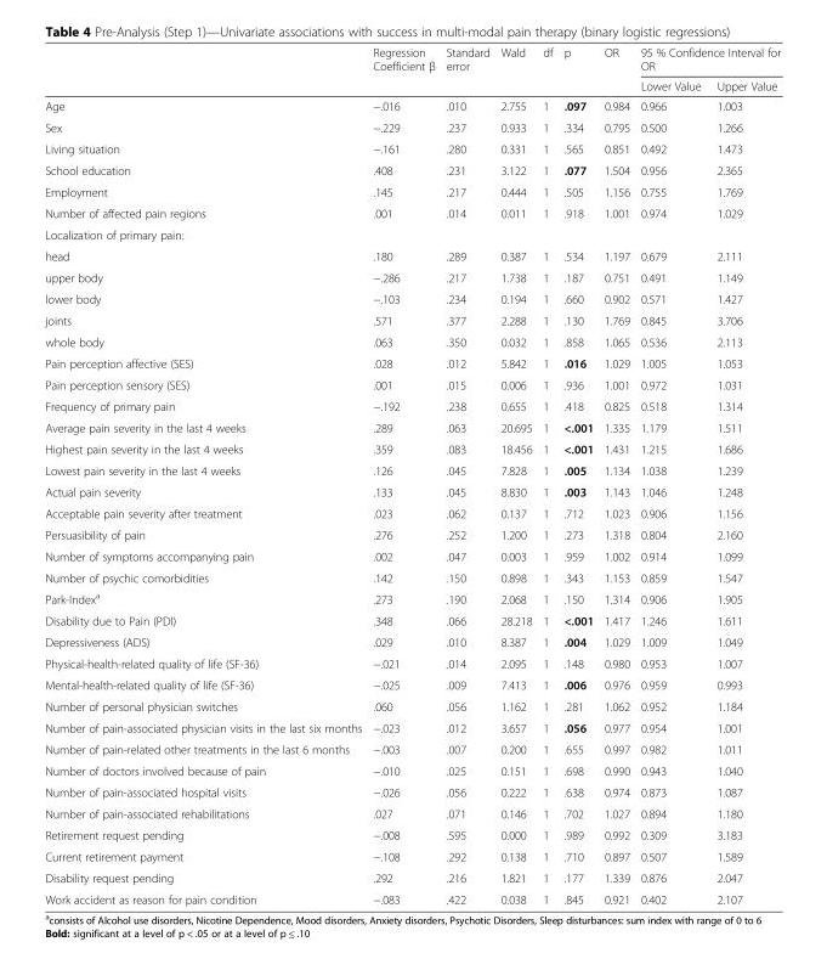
<table><thead><tr><td rowspan="2"></td><td rowspan="2">Regression Coefficient β</td><td rowspan="2">Standard error</td><td rowspan="2">Wald</td><td rowspan="2">df</td><td rowspan="2">p</td><td rowspan="2">OR</td><td colspan="2">95 % Confidence Interval for OR</td></tr><tr><td>Lower Value</td><td>Upper Value</td></tr></thead><tbody><tr><td>Age</td><td>−.016</td><td>.010</td><td>2.755</td><td>1</td><td>.097</td><td>0.984</td><td>0.966</td><td>1.003</td></tr><tr><td>Sex</td><td>−.229</td><td>.237</td><td>0.933</td><td>1</td><td>.334</td><td>0.795</td><td>0.500</td><td>1.266</td></tr><tr><td>Living situation</td><td>−.161</td><td>.280</td><td>0.331</td><td>1</td><td>.565</td><td>0.851</td><td>0.492</td><td>1.473</td></tr><tr><td>School education</td><td>.408</td><td>.231</td><td>3.122</td><td>1</td><td>.077</td><td>1.504</td><td>0.956</td><td>2.365</td></tr><tr><td>Employment</td><td>.145</td><td>.217</td><td>0.444</td><td>1</td><td>.505</td><td>1.156</td><td>0.755</td><td>1.769</td></tr><tr><td>Number of affected pain regions</td><td>.001</td><td>.014</td><td>0.011</td><td>1</td><td>.918</td><td>1.001</td><td>0.974</td><td>1.029</td></tr><tr><td colspan="9">Localization of primary pain:</td></tr><tr><td>head</td><td>.180</td><td>.289</td><td>0.387</td><td>1</td><td>.534</td><td>1.197</td><td>0.679</td><td>2.111</td></tr><tr><td>upper body</td><td>−.286</td><td>.217</td><td>1.738</td><td>1</td><td>.187</td><td>0.751</td><td>0.491</td><td>1.149</td></tr><tr><td>lower body</td><td>−.103</td><td>.234</td><td>0.194</td><td>1</td><td>.660</td><td>0.902</td><td>0.571</td><td>1.427</td></tr><tr><td>joints</td><td>.571</td><td>.377</td><td>2.288</td><td>1</td><td>.130</td><td>1.769</td><td>0.845</td><td>3.706</td></tr><tr><td>whole body</td><td>.063</td><td>.350</td><td>0.032</td><td>1</td><td>.858</td><td>1.065</td><td>0.536</td><td>2.113</td></tr><tr><td>Pain perception affective (SES)</td><td>.028</td><td>.012</td><td>5.842</td><td>1</td><td>.016</td><td>1.029</td><td>1.005</td><td>1.053</td></tr><tr><td>Pain perception sensory (SES)</td><td>.001</td><td>.015</td><td>0.006</td><td>1</td><td>.936</td><td>1.001</td><td>0.972</td><td>1.031</td></tr><tr><td>Frequency of primary pain</td><td>−.192</td><td>.238</td><td>0.655</td><td>1</td><td>.418</td><td>0.825</td><td>0.518</td><td>1.314</td></tr><tr><td>Average pain severity in the last 4 weeks</td><td>.289</td><td>.063</td><td>20.695</td><td>1</td><td>&lt;.001</td><td>1.335</td><td>1.179</td><td>1.511</td></tr><tr><td>Highest pain severity in the last 4 weeks</td><td>.359</td><td>.083</td><td>18.456</td><td>1</td><td>&lt;.001</td><td>1.431</td><td>1.215</td><td>1.686</td></tr><tr><td>Lowest pain severity in the last 4 weeks</td><td>.126</td><td>.045</td><td>7.828</td><td>1</td><td>.005</td><td>1.134</td><td>1.038</td><td>1.239</td></tr><tr><td>Actual pain severity</td><td>.133</td><td>.045</td><td>8.830</td><td>1</td><td>.003</td><td>1.143</td><td>1.046</td><td>1.248</td></tr><tr><td>Acceptable pain severity after treatment</td><td>.023</td><td>.062</td><td>0.137</td><td>1</td><td>.712</td><td>1.023</td><td>0.906</td><td>1.156</td></tr><tr><td>Persuasibility of pain</td><td>.276</td><td>.252</td><td>1.200</td><td>1</td><td>.273</td><td>1.318</td><td>0.804</td><td>2.160</td></tr><tr><td>Number of symptoms accompanying pain</td><td>.002</td><td>.047</td><td>0.003</td><td>1</td><td>.959</td><td>1.002</td><td>0.914</td><td>1.099</td></tr><tr><td>Number of psychic comorbidities</td><td>.142</td><td>.150</td><td>0.898</td><td>1</td><td>.343</td><td>1.153</td><td>0.859</td><td>1.547</td></tr><tr><td>Park-Index<sup>a</sup></td><td>.273</td><td>.190</td><td>2.068</td><td>1</td><td>.150</td><td>1.314</td><td>0.906</td><td>1.905</td></tr><tr><td>Disability due to Pain (PDI)</td><td>.348</td><td>.066</td><td>28.218</td><td>1</td><td>&lt;.001</td><td>1.417</td><td>1.246</td><td>1.611</td></tr><tr><td>Depressiveness (ADS)</td><td>.029</td><td>.010</td><td>8.387</td><td>1</td><td>.004</td><td>1.029</td><td>1.009</td><td>1.049</td></tr><tr><td>Physical-health-related quality of life (SF-36)</td><td>−.021</td><td>.014</td><td>2.095</td><td>1</td><td>.148</td><td>0.980</td><td>0.953</td><td>1.007</td></tr><tr><td>Mental-health-related quality of life (SF-36)</td><td>−.025</td><td>.009</td><td>7.413</td><td>1</td><td>.006</td><td>0.976</td><td>0.959</td><td>0.993</td></tr><tr><td>Number of personal physician switches</td><td>.060</td><td>.056</td><td>1.162</td><td>1</td><td>.281</td><td>1.062</td><td>0.952</td><td>1.184</td></tr><tr><td>Number of pain-associated physician visits in the last six months</td><td>−.023</td><td>.012</td><td>3.657</td><td>1</td><td>.056</td><td>0.977</td><td>0.954</td><td>1.001</td></tr><tr><td>Number of pain-related other treatments in the last 6 months</td><td>−.003</td><td>.007</td><td>0.200</td><td>1</td><td>.655</td><td>0.997</td><td>0.982</td><td>1.011</td></tr><tr><td>Number of doctors involved because of pain</td><td>−.010</td><td>.025</td><td>0.151</td><td>1</td><td>.698</td><td>0.990</td><td>0.943</td><td>1.040</td></tr><tr><td>Number of pain-associated hospital visits</td><td>−.026</td><td>.056</td><td>0.222</td><td>1</td><td>.638</td><td>0.974</td><td>0.873</td><td>1.087</td></tr><tr><td>Number of pain-associated rehabilitations</td><td>.027</td><td>.071</td><td>0.146</td><td>1</td><td>.702</td><td>1.027</td><td>0.894</td><td>1.180</td></tr><tr><td>Retirement request pending</td><td>−.008</td><td>.595</td><td>0.000</td><td>1</td><td>.989</td><td>0.992</td><td>0.309</td><td>3.183</td></tr><tr><td>Current retirement payment</td><td>−.108</td><td>.292</td><td>0.138</td><td>1</td><td>.710</td><td>0.897</td><td>0.507</td><td>1.589</td></tr><tr><td>Disability request pending</td><td>.292</td><td>.216</td><td>1.821</td><td>1</td><td>.177</td><td>1.339</td><td>0.876</td><td>2.047</td></tr><tr><td>Work accident as reason for pain condition</td><td>−.083</td><td>.422</td><td>0.038</td><td>1</td><td>.845</td><td>0.921</td><td>0.402</td><td>2.107</td></tr></tbody></table>